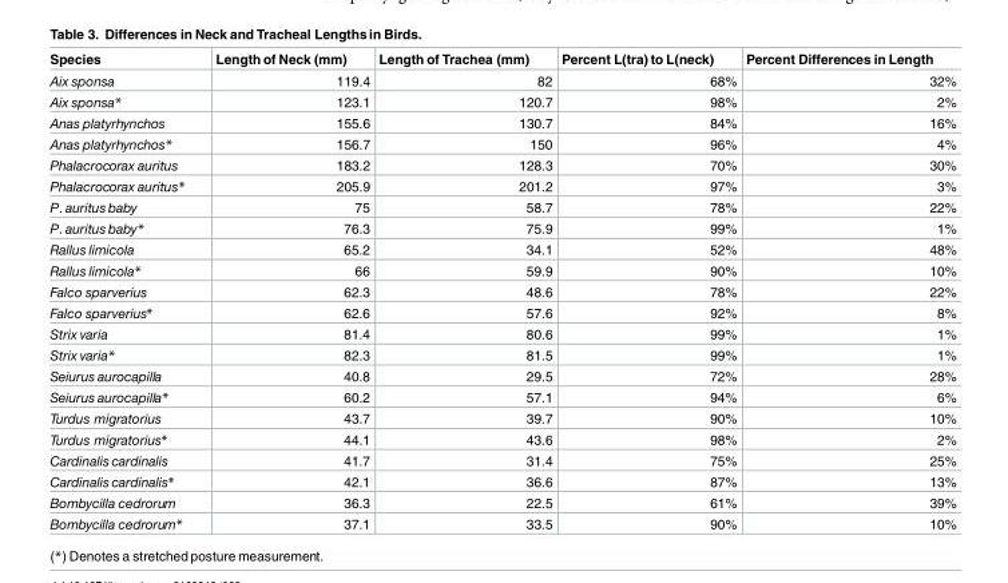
<table><thead><tr><td>Species</td><td>Length of Neck (mm)</td><td>Length of Trachea (mm)</td><td>Percent L(tra) to L(neck)</td><td>Percent Differences in Length</td></tr></thead><tbody><tr><td>Aix sponsa</td><td>119.4</td><td>82</td><td>68%</td><td>32%</td></tr><tr><td>Aix sponsa*</td><td>123.1</td><td>120.7</td><td>98%</td><td>2%</td></tr><tr><td>Anas platyrhynchos</td><td>155.6</td><td>130.7</td><td>84%</td><td>16%</td></tr><tr><td>Anas platyrhynchos*</td><td>156.7</td><td>150</td><td>96%</td><td>4%</td></tr><tr><td>Phalacrocorax auritus</td><td>183.2</td><td>128.3</td><td>70%</td><td>30%</td></tr><tr><td>Phalacrocorax auritus*</td><td>205.9</td><td>201.2</td><td>97%</td><td>3%</td></tr><tr><td>P. auritus baby</td><td>75</td><td>58.7</td><td>78%</td><td>22%</td></tr><tr><td>P. auritus baby*</td><td>76.3</td><td>75.9</td><td>99%</td><td>1%</td></tr><tr><td>Rallus limicola</td><td>65.2</td><td>34.1</td><td>52%</td><td>48%</td></tr><tr><td>Rallus limicola*</td><td>66</td><td>59.9</td><td>90%</td><td>10%</td></tr><tr><td>Falco sparverius</td><td>62.3</td><td>48.6</td><td>78%</td><td>22%</td></tr><tr><td>Falco sparverius*</td><td>62.6</td><td>57.6</td><td>92%</td><td>8%</td></tr><tr><td>Strix varia</td><td>81.4</td><td>80.6</td><td>99%</td><td>1%</td></tr><tr><td>Strix varia*</td><td>82.3</td><td>81.5</td><td>99%</td><td>1%</td></tr><tr><td>Seiurus aurocapilla</td><td>40.8</td><td>29.5</td><td>72%</td><td>28%</td></tr><tr><td>Seiurus aurocapilla*</td><td>60.2</td><td>57.1</td><td>94%</td><td>6%</td></tr><tr><td>Turdus migratorius</td><td>43.7</td><td>39.7</td><td>90%</td><td>10%</td></tr><tr><td>Turdus migratorius*</td><td>44.1</td><td>43.6</td><td>98%</td><td>2%</td></tr><tr><td>Cardinalis cardinalis</td><td>41.7</td><td>31.4</td><td>75%</td><td>25%</td></tr><tr><td>Cardinalis cardinalis*</td><td>42.1</td><td>36.6</td><td>87%</td><td>13%</td></tr><tr><td>Bombycilla cedrorum</td><td>36.3</td><td>22.5</td><td>61%</td><td>39%</td></tr><tr><td>Bombycilla cedrorum*</td><td>37.1</td><td>33.5</td><td>90%</td><td>10%</td></tr></tbody></table>